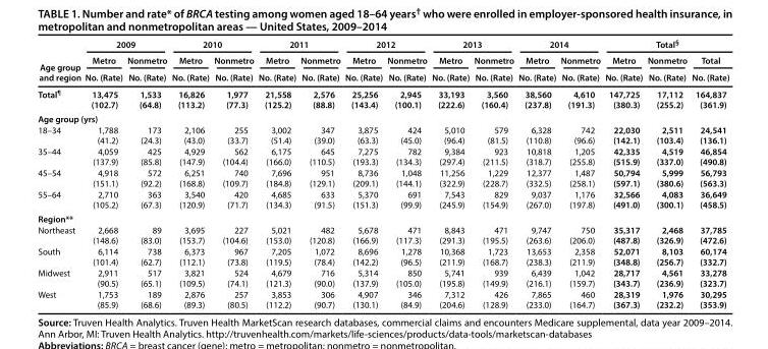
<table><thead><tr><td rowspan="3">Age group and region</td><td colspan="2">2009</td><td colspan="2">2010</td><td colspan="2">2011</td><td colspan="2">2012</td><td colspan="2">2013</td><td colspan="2">2014</td><td colspan="3">Total<sup>§</sup></td></tr><tr><td rowspan="2">Metro No. (Rate)</td><td rowspan="2">Nonmetro No. (Rate)</td><td rowspan="2">Metro No. (Rate)</td><td rowspan="2">Nonmetro No. (Rate)</td><td rowspan="2">Metro No. (Rate)</td><td rowspan="2">Nonmetro No. (Rate)</td><td rowspan="2">Metro No. (Rate)</td><td rowspan="2">Nonmetro No. (Rate)</td><td rowspan="2">Metro No. (Rate)</td><td rowspan="2">Nonmetro No. (Rate)</td><td rowspan="2">Metro No. (Rate)</td><td rowspan="2">Nonmetro No. (Rate)</td><td rowspan="2">Metro No. (Rate)</td><td rowspan="2">Nonmetro No. (Rate)</td><td rowspan="2">Total No. (Rate)</td></tr><tr></tr></thead><tbody><tr><td>Total<sup>¶</sup></td><td>13,475 (102.7)</td><td>1,533 (64.8)</td><td>16,826 (113.2)</td><td>1,977 (77.3)</td><td>21,558 (125.2)</td><td>2,576 (88.8)</td><td>25,256 (143.4)</td><td>2,945 (100.1)</td><td>33,193 (222.6)</td><td>3,560 (160.4)</td><td>38,560 (237.8)</td><td>4,610 (191.3)</td><td>147,725 (380.3)</td><td>17,112 (255.2)</td><td>164,837 (361.9)</td></tr><tr><td colspan="16">Age group (yrs)</td></tr><tr><td>18–34</td><td>1,788 (41.2)</td><td>173 (24.3)</td><td>2,106 (43.0)</td><td>255 (33.7)</td><td>3,002 (51.4)</td><td>347 (39.0)</td><td>3,875 (63.3)</td><td>424 (45.0)</td><td>5,010 (96.4)</td><td>579 (81.5)</td><td>6,328 (110.8)</td><td>742 (96.6)</td><td>22,030 (142.1)</td><td>2,511 (103.4)</td><td>24,541 (136.1)</td></tr><tr><td>35–44</td><td>4,059 (137.9)</td><td>425 (85.8)</td><td>4,929 (147.9)</td><td>562 (104.4)</td><td>6,175 (166.0)</td><td>645 (110.5)</td><td>7,275 (193.3)</td><td>782 (134.3)</td><td>9,384 (297.4)</td><td>923 (211.5)</td><td>10,818 (318.7)</td><td>1,205 (255.8)</td><td>42,335 (515.9)</td><td>4,519 (337.0)</td><td>46,854 (490.8)</td></tr><tr><td>45–54</td><td>4,918 (151.1)</td><td>572 (92.2)</td><td>6,251 (168.8)</td><td>740 (109.7)</td><td>7,696 (184.8)</td><td>951 (129.1)</td><td>8,736 (209.1)</td><td>1,048 (144.1)</td><td>11,256 (322.9)</td><td>1,229 (228.7)</td><td>12,377 (332.5)</td><td>1,487 (258.1)</td><td>50,794 (597.1)</td><td>5,999 (380.6)</td><td>56,793 (563.3)</td></tr><tr><td>55–64</td><td>2,710 (105.2)</td><td>363 (67.3)</td><td>3,540 (120.9)</td><td>420 (71.7)</td><td>4,685 (134.3)</td><td>633 (91.5)</td><td>5,370 (151.3)</td><td>691 (99.9)</td><td>7,543 (245.9)</td><td>829 (154.9)</td><td>9,037 (267.0)</td><td>1,176 (197.8)</td><td>32,566 (491.0)</td><td>4,083 (300.1)</td><td>36,649 (458.5)</td></tr><tr><td colspan="16">Region**</td></tr><tr><td>Northeast</td><td>2,668 (148.6)</td><td>89 (83.0)</td><td>3,695 (153.7)</td><td>227 (104.6)</td><td>5,021 (153.0)</td><td>482 (120.8)</td><td>5,678 (166.9)</td><td>471 (117.3)</td><td>8,843 (291.3)</td><td>471 (195.5)</td><td>9,747 (263.6)</td><td>750 (206.0)</td><td>35,317 (487.8)</td><td>2,468 (326.9)</td><td>37,785 (472.6)</td></tr><tr><td>South</td><td>6,114 (101.4)</td><td>738 (62.7)</td><td>6,373 (112.1)</td><td>967 (73.8)</td><td>7,205 (119.5)</td><td>1,072 (78.4)</td><td>8,696 (142.2)</td><td>1,278 (96.5)</td><td>10,368 (211.9)</td><td>1,723 (168.7)</td><td>13,653 (238.3)</td><td>2,358 (211.9)</td><td>52,071 (348.8)</td><td>8,103 (256.7)</td><td>60,174 (332.7)</td></tr><tr><td>Midwest</td><td>2,911 (90.5)</td><td>517 (65.1)</td><td>3,821 (109.5)</td><td>524 (74.1)</td><td>4,679 (121.3)</td><td>716 (90.0)</td><td>5,314 (137.9)</td><td>850 (105.0)</td><td>5,741 (195.8)</td><td>939 (149.9)</td><td>6,439 (216.1)</td><td>1,042 (159.7)</td><td>28,717 (343.7)</td><td>4,561 (236.9)</td><td>33,278 (323.7)</td></tr><tr><td>West</td><td>1,753 (85.9)</td><td>189 (68.6)</td><td>2,876 (89.3)</td><td>257 (80.5)</td><td>3,853 (112.2)</td><td>306 (90.7)</td><td>4,907 (130.1)</td><td>346 (84.9)</td><td>7,312 (204.6)</td><td>426 (128.9)</td><td>7,865 (233.0)</td><td>460 (164.7)</td><td>28,319 (367.3)</td><td>1,976 (232.2)</td><td>30,295 (353.9)</td></tr></tbody></table>